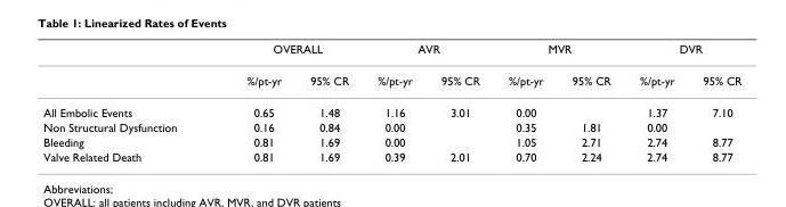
<table><thead><tr><td rowspan="2"></td><td colspan="2">OVERALL</td><td colspan="2">AVR</td><td colspan="2">MVR</td><td colspan="2">DVR</td></tr><tr><td>%/pt-yr</td><td>95% CR</td><td>%/pt-yr</td><td>95% CR</td><td>%/pt-yr</td><td>95% CR</td><td>%/pt-yr</td><td>95% CR</td></tr></thead><tbody><tr><td>All Embolic Events</td><td>0.65</td><td>1.48</td><td>1.16</td><td>3.01</td><td>0.00</td><td></td><td>1.37</td><td>7.10</td></tr><tr><td>Non Structural Dysfunction</td><td>0.16</td><td>0.84</td><td>0.00</td><td></td><td>0.35</td><td>1.81</td><td>0.00</td><td></td></tr><tr><td>Bleeding</td><td>0.81</td><td>1.69</td><td>0.00</td><td></td><td>1.05</td><td>2.71</td><td>2.74</td><td>8.77</td></tr><tr><td>Valve Related Death</td><td>0.81</td><td>1.69</td><td>0.39</td><td>2.01</td><td>0.70</td><td>2.24</td><td>2.74</td><td>8.77</td></tr></tbody></table>